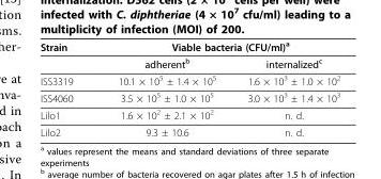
<table><thead><tr><td rowspan="2">Strain</td><td colspan="2">Viable bacteria (CFU/ml)<sup>a</sup></td></tr><tr><td>adherent<sup>b</sup></td><td>internalized<sup>c</sup></td></tr></thead><tbody><tr><td>ISS3319</td><td>10.1 × 10<sup>5</sup> ± 1.4 × 10<sup>5</sup></td><td>1.6 × 10<sup>3</sup> ± 1.0 × 10<sup>2</sup></td></tr><tr><td>ISS4060</td><td>3.5 × 10<sup>5</sup> ± 1.0 × 10<sup>5</sup></td><td>3.0 × 10<sup>3</sup> ± 1.4 × 10<sup>3</sup></td></tr><tr><td>Lilo1</td><td>1.6 × 10<sup>2</sup> ± 2.1 × 10<sup>2</sup></td><td>n. d.</td></tr><tr><td>Lilo2</td><td>9.3 ± 10.6</td><td>n. d.</td></tr></tbody></table>